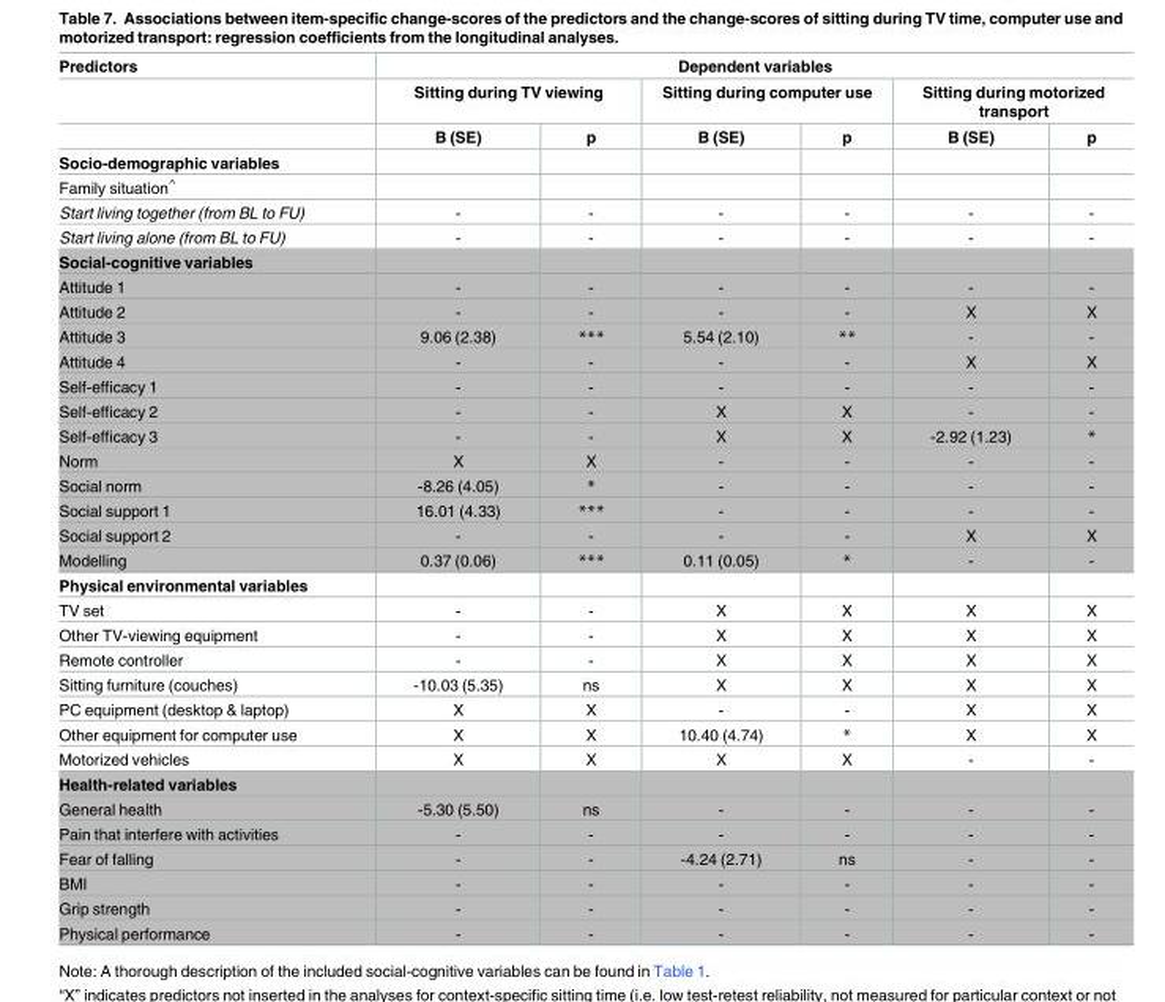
<table><thead><tr><td rowspan="3">Predictors</td><td colspan="6">Dependent variables</td></tr><tr><td colspan="2">Sitting during TV viewing</td><td colspan="2">Sitting during computer use</td><td colspan="2">Sitting during motorized transport</td></tr><tr><td>B (SE)</td><td>p</td><td>B (SE)</td><td>p</td><td>B (SE)</td><td>p</td></tr></thead><tbody><tr><td colspan="7">Socio-demographic variables</td></tr><tr><td colspan="7">Family situation<sup>^</sup></td></tr><tr><td>Start living together (from BL to FU)</td><td>-</td><td>-</td><td>-</td><td>-</td><td>-</td><td>-</td></tr><tr><td>Start living alone (from BL to FU)</td><td>-</td><td>-</td><td>-</td><td>-</td><td>-</td><td>-</td></tr><tr><td colspan="7">Social-cognitive variables</td></tr><tr><td>Attitude 1</td><td>-</td><td>-</td><td>-</td><td>-</td><td>-</td><td>-</td></tr><tr><td>Attitude 2</td><td>-</td><td>-</td><td>-</td><td>-</td><td>X</td><td>X</td></tr><tr><td>Attitude 3</td><td>9.06 (2.38)</td><td>***</td><td>5.54 (2.10)</td><td>**</td><td>-</td><td>-</td></tr><tr><td>Attitude 4</td><td>-</td><td>-</td><td>-</td><td>-</td><td>X</td><td>X</td></tr><tr><td>Self-efficacy 1</td><td>-</td><td>-</td><td>-</td><td>-</td><td>-</td><td>-</td></tr><tr><td>Self-efficacy 2</td><td>-</td><td>-</td><td>X</td><td>X</td><td>-</td><td>-</td></tr><tr><td>Self-efficacy 3</td><td>-</td><td>-</td><td>X</td><td>X</td><td>-2.92 (1.23)</td><td>*</td></tr><tr><td>Norm</td><td>X</td><td>X</td><td>-</td><td>-</td><td>-</td><td>-</td></tr><tr><td>Social norm</td><td>-8.26 (4.05)</td><td>*</td><td>-</td><td>-</td><td>-</td><td>-</td></tr><tr><td>Social support 1</td><td>16.01 (4.33)</td><td>***</td><td>-</td><td>-</td><td>-</td><td>-</td></tr><tr><td>Social support 2</td><td>-</td><td>-</td><td>-</td><td>-</td><td>X</td><td>X</td></tr><tr><td>Modelling</td><td>0.37 (0.06)</td><td>***</td><td>0.11 (0.05)</td><td>*</td><td>-</td><td>-</td></tr><tr><td colspan="7">Physical environmental variables</td></tr><tr><td>TV set</td><td>-</td><td>-</td><td>X</td><td>X</td><td>X</td><td>X</td></tr><tr><td>Other TV-viewing equipment</td><td>-</td><td>-</td><td>X</td><td>X</td><td>X</td><td>X</td></tr><tr><td>Remote controller</td><td>-</td><td>-</td><td>X</td><td>X</td><td>X</td><td>X</td></tr><tr><td>Sitting furniture (couches)</td><td>-10.03 (5.35)</td><td>ns</td><td>X</td><td>X</td><td>X</td><td>X</td></tr><tr><td>PC equipment (desktop &amp; laptop)</td><td>X</td><td>X</td><td>-</td><td>-</td><td>X</td><td>X</td></tr><tr><td>Other equipment for computer use</td><td>X</td><td>X</td><td>10.40 (4.74)</td><td>*</td><td>X</td><td>X</td></tr><tr><td>Motorized vehicles</td><td>X</td><td>X</td><td>X</td><td>X</td><td>-</td><td>-</td></tr><tr><td colspan="7">Health-related variables</td></tr><tr><td>General health</td><td>-5.30 (5.50)</td><td>ns</td><td>-</td><td>-</td><td>-</td><td>-</td></tr><tr><td>Pain that interfere with activities</td><td>-</td><td>-</td><td>-</td><td>-</td><td>-</td><td>-</td></tr><tr><td>Fear of falling</td><td>-</td><td>-</td><td>-4.24 (2.71)</td><td>ns</td><td>-</td><td>-</td></tr><tr><td>BMI</td><td>-</td><td>-</td><td>-</td><td>-</td><td>-</td><td>-</td></tr><tr><td>Grip strength</td><td>-</td><td>-</td><td>-</td><td>-</td><td>-</td><td>-</td></tr><tr><td>Physical performance</td><td>-</td><td>-</td><td>-</td><td>-</td><td>-</td><td>-</td></tr></tbody></table>